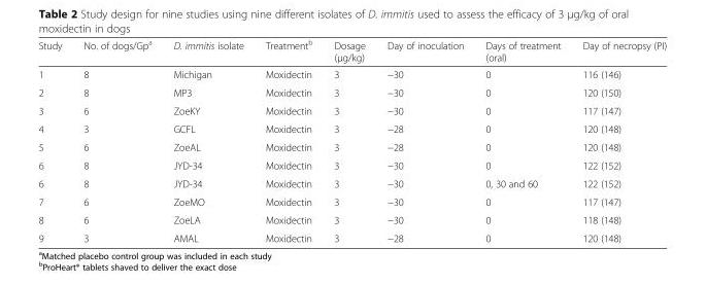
<table><thead><tr><td>Study</td><td>No. of dogs/Gp<sup>a</sup></td><td>D. immitis isolate</td><td>Treatment<sup>b</sup></td><td>Dosage (μg/kg)</td><td>Day of inoculation</td><td>Days of treatment (oral)</td><td>Day of necropsy (PI)</td></tr></thead><tbody><tr><td>1</td><td>8</td><td>Michigan</td><td>Moxidectin</td><td>3</td><td>−30</td><td>0</td><td>116 (146)</td></tr><tr><td>2</td><td>8</td><td>MP3</td><td>Moxidectin</td><td>3</td><td>−30</td><td>0</td><td>120 (150)</td></tr><tr><td>3</td><td>6</td><td>ZoeKY</td><td>Moxidectin</td><td>3</td><td>−30</td><td>0</td><td>117 (147)</td></tr><tr><td>4</td><td>3</td><td>GCFL</td><td>Moxidectin</td><td>3</td><td>−28</td><td>0</td><td>120 (148)</td></tr><tr><td>5</td><td>6</td><td>ZoeAL</td><td>Moxidectin</td><td>3</td><td>−28</td><td>0</td><td>120 (148)</td></tr><tr><td>6</td><td>8</td><td>JYD-34</td><td>Moxidectin</td><td>3</td><td>−30</td><td>0</td><td>122 (152)</td></tr><tr><td>6</td><td>8</td><td>JYD-34</td><td>Moxidectin</td><td>3</td><td>−30</td><td>0, 30 and 60</td><td>122 (152)</td></tr><tr><td>7</td><td>6</td><td>ZoeMO</td><td>Moxidectin</td><td>3</td><td>−30</td><td>0</td><td>117 (147)</td></tr><tr><td>8</td><td>6</td><td>ZoeLA</td><td>Moxidectin</td><td>3</td><td>−30</td><td>0</td><td>118 (148)</td></tr><tr><td>9</td><td>3</td><td>AMAL</td><td>Moxidectin</td><td>3</td><td>−28</td><td>0</td><td>120 (148)</td></tr></tbody></table>